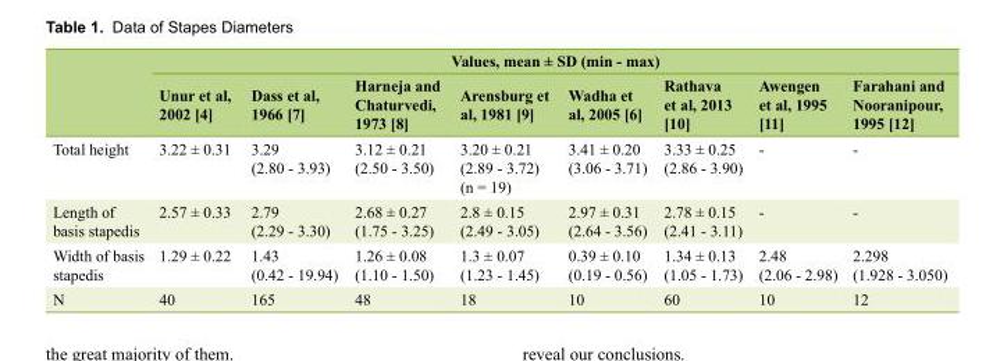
<table><thead><tr><td rowspan="2"></td><td colspan="8">Values, mean ± SD (min - max)</td></tr><tr><td>Unur et al, 2002 [4]</td><td>Dass et al, 1966 [7]</td><td>Harneja and Chaturvedi, 1973 [8]</td><td>Arensburg et al, 1981 [9]</td><td>Wadha et al, 2005 [6]</td><td>Rathava et al, 2013 [10]</td><td>Awengen et al, 1995 [11]</td><td>Farahani and Nooranipour, 1995 [12]</td></tr></thead><tbody><tr><td>Total height</td><td>3.22 ± 0.31</td><td>3.29 (2.80 - 3.93)</td><td>3.12 ± 0.21 (2.50 - 3.50)</td><td>3.20 ± 0.21 (2.89 - 3.72) (n = 19)</td><td>3.41 ± 0.20 (3.06 - 3.71)</td><td>3.33 ± 0.25 (2.86 - 3.90)</td><td>-</td><td>-</td></tr><tr><td>Length of basis stapedis</td><td>2.57 ± 0.33</td><td>2.79 (2.29 - 3.30)</td><td>2.68 ± 0.27 (1.75 - 3.25)</td><td>2.8 ± 0.15 (2.49 - 3.05)</td><td>2.97 ± 0.31 (2.64 - 3.56)</td><td>2.78 ± 0.15 (2.41 - 3.11)</td><td>-</td><td>-</td></tr><tr><td>Width of basis stapedis</td><td>1.29 ± 0.22</td><td>1.43 (0.42 - 19.94)</td><td>1.26 ± 0.08 (1.10 - 1.50)</td><td>1.3 ± 0.07 (1.23 - 1.45)</td><td>0.39 ± 0.10 (0.19 - 0.56)</td><td>1.34 ± 0.13 (1.05 - 1.73)</td><td>2.48 (2.06 - 2.98)</td><td>2.298 (1.928 - 3.050)</td></tr><tr><td>N</td><td>40</td><td>165</td><td>48</td><td>18</td><td>10</td><td>60</td><td>10</td><td>12</td></tr></tbody></table>